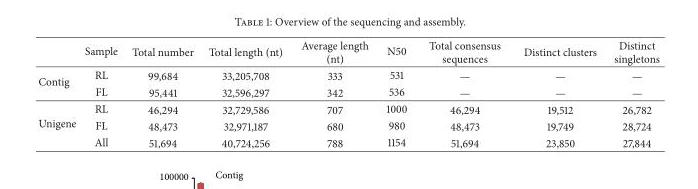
<table><thead><tr><td></td><td>Sample</td><td>Total number</td><td>Total length (nt)</td><td>Average length (nt)</td><td>N50</td><td>Total consensus sequences</td><td>Distinct clusters</td><td>Distinct singletons</td></tr></thead><tbody><tr><td rowspan="2">Contig</td><td>RL</td><td>99,684</td><td>33,205,708</td><td>333</td><td>531</td><td>—</td><td>—</td><td>—</td></tr><tr><td>FL</td><td>95,441</td><td>32,596,297</td><td>342</td><td>536</td><td>—</td><td>—</td><td>—</td></tr><tr><td rowspan="3">Unigene</td><td>RL</td><td>46,294</td><td>32,729,586</td><td>707</td><td>1000</td><td>46,294</td><td>19,512</td><td>26,782</td></tr><tr><td>FL</td><td>48,473</td><td>32,971,187</td><td>680</td><td>980</td><td>48,473</td><td>19,749</td><td>28,724</td></tr><tr><td>All</td><td>51,694</td><td>40,724,256</td><td>788</td><td>1154</td><td>51,694</td><td>23,850</td><td>27,844</td></tr></tbody></table>